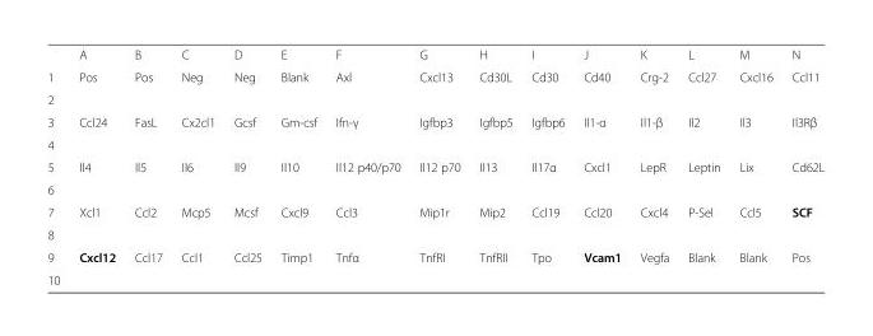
<table><thead><tr><td></td><td>A</td><td>B</td><td>C</td><td>D</td><td>E</td><td>F</td><td>G</td><td>H</td><td>I</td><td>J</td><td>K</td><td>L</td><td>M</td><td>N</td></tr></thead><tbody><tr><td>1</td><td rowspan="2">Pos</td><td rowspan="2">Pos</td><td rowspan="2">Neg</td><td rowspan="2">Neg</td><td rowspan="2">Blank</td><td rowspan="2">Axl</td><td rowspan="2">Cxcl13</td><td rowspan="2">Cd30L</td><td rowspan="2">Cd30</td><td rowspan="2">Cd40</td><td rowspan="2">Crg-2</td><td rowspan="2">Ccl27</td><td rowspan="2">Cxcl16</td><td rowspan="2">Ccl11</td></tr><tr><td>2</td></tr><tr><td>3</td><td rowspan="2">Ccl24</td><td rowspan="2">FasL</td><td rowspan="2">Cx2cl1</td><td rowspan="2">Gcsf</td><td rowspan="2">Gm-csf</td><td rowspan="2">Ifn-γ</td><td rowspan="2">Igfbp3</td><td rowspan="2">Igfbp5</td><td rowspan="2">Igfbp6</td><td rowspan="2">Il1-α</td><td rowspan="2">Il1-β</td><td rowspan="2">Il2</td><td rowspan="2">Il3</td><td rowspan="2">Il3Rβ</td></tr><tr><td>4</td></tr><tr><td>5</td><td rowspan="2">Il4</td><td rowspan="2">Il5</td><td rowspan="2">Il6</td><td rowspan="2">Il9</td><td rowspan="2">Il10</td><td rowspan="2">Il12 p40/p70</td><td rowspan="2">Il12 p70</td><td rowspan="2">Il13</td><td rowspan="2">Il17α</td><td rowspan="2">Cxcl1</td><td rowspan="2">LepR</td><td rowspan="2">Leptin</td><td rowspan="2">Lix</td><td rowspan="2">Cd62L</td></tr><tr><td>6</td></tr><tr><td>7</td><td rowspan="2">Xcl1</td><td rowspan="2">Ccl2</td><td rowspan="2">Mcp5</td><td rowspan="2">Mcsf</td><td rowspan="2">Cxcl9</td><td rowspan="2">Ccl3</td><td rowspan="2">Mip1r</td><td rowspan="2">Mip2</td><td rowspan="2">Ccl19</td><td rowspan="2">Ccl20</td><td rowspan="2">Cxcl4</td><td rowspan="2">P-Sel</td><td rowspan="2">Ccl5</td><td rowspan="2">SCF</td></tr><tr><td>8</td></tr><tr><td>9</td><td rowspan="2">Cxcl12</td><td rowspan="2">Ccl17</td><td rowspan="2">Ccl1</td><td rowspan="2">Ccl25</td><td rowspan="2">Timp1</td><td rowspan="2">Tnfα</td><td rowspan="2">TnfRI</td><td rowspan="2">TnfRII</td><td rowspan="2">Tpo</td><td rowspan="2">Vcam1</td><td rowspan="2">Vegfa</td><td rowspan="2">Blank</td><td rowspan="2">Blank</td><td rowspan="2">Pos</td></tr><tr><td>10</td></tr></tbody></table>